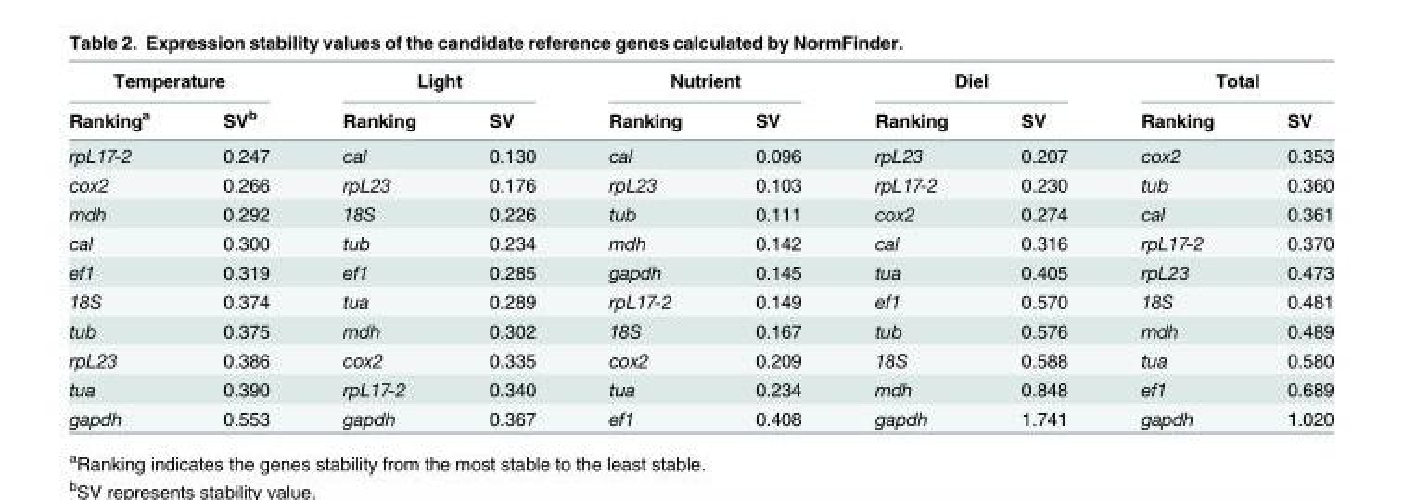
<table><thead><tr><td colspan="2">Temperature</td><td colspan="2">Light</td><td colspan="2">Nutrient</td><td colspan="2">Diel</td><td colspan="2">Total</td></tr><tr><td>Ranking<sup>a</sup></td><td>SV<sup>b</sup></td><td>Ranking</td><td>SV</td><td>Ranking</td><td>SV</td><td>Ranking</td><td>SV</td><td>Ranking</td><td>SV</td></tr></thead><tbody><tr><td>rpL17-2</td><td>0.247</td><td>cal</td><td>0.130</td><td>cal</td><td>0.096</td><td>rpL23</td><td>0.207</td><td>cox2</td><td>0.353</td></tr><tr><td>cox2</td><td>0.266</td><td>rpL23</td><td>0.176</td><td>rpL23</td><td>0.103</td><td>rpL17-2</td><td>0.230</td><td>tub</td><td>0.360</td></tr><tr><td>mdh</td><td>0.292</td><td>18S</td><td>0.226</td><td>tub</td><td>0.111</td><td>cox2</td><td>0.274</td><td>cal</td><td>0.361</td></tr><tr><td>cal</td><td>0.300</td><td>tub</td><td>0.234</td><td>mdh</td><td>0.142</td><td>cal</td><td>0.316</td><td>rpL17-2</td><td>0.370</td></tr><tr><td>ef1</td><td>0.319</td><td>ef1</td><td>0.285</td><td>gapdh</td><td>0.145</td><td>tua</td><td>0.405</td><td>rpL23</td><td>0.473</td></tr><tr><td>18S</td><td>0.374</td><td>tua</td><td>0.289</td><td>rpL17-2</td><td>0.149</td><td>ef1</td><td>0.570</td><td>18S</td><td>0.481</td></tr><tr><td>tub</td><td>0.375</td><td>mdh</td><td>0.302</td><td>18S</td><td>0.167</td><td>tub</td><td>0.576</td><td>mdh</td><td>0.489</td></tr><tr><td>rpL23</td><td>0.386</td><td>cox2</td><td>0.335</td><td>cox2</td><td>0.209</td><td>18S</td><td>0.588</td><td>tua</td><td>0.580</td></tr><tr><td>tua</td><td>0.390</td><td>rpL17-2</td><td>0.340</td><td>tua</td><td>0.234</td><td>mdh</td><td>0.848</td><td>ef1</td><td>0.689</td></tr><tr><td>gapdh</td><td>0.553</td><td>gapdh</td><td>0.367</td><td>ef1</td><td>0.408</td><td>gapdh</td><td>1.741</td><td>gapdh</td><td>1.020</td></tr></tbody></table>